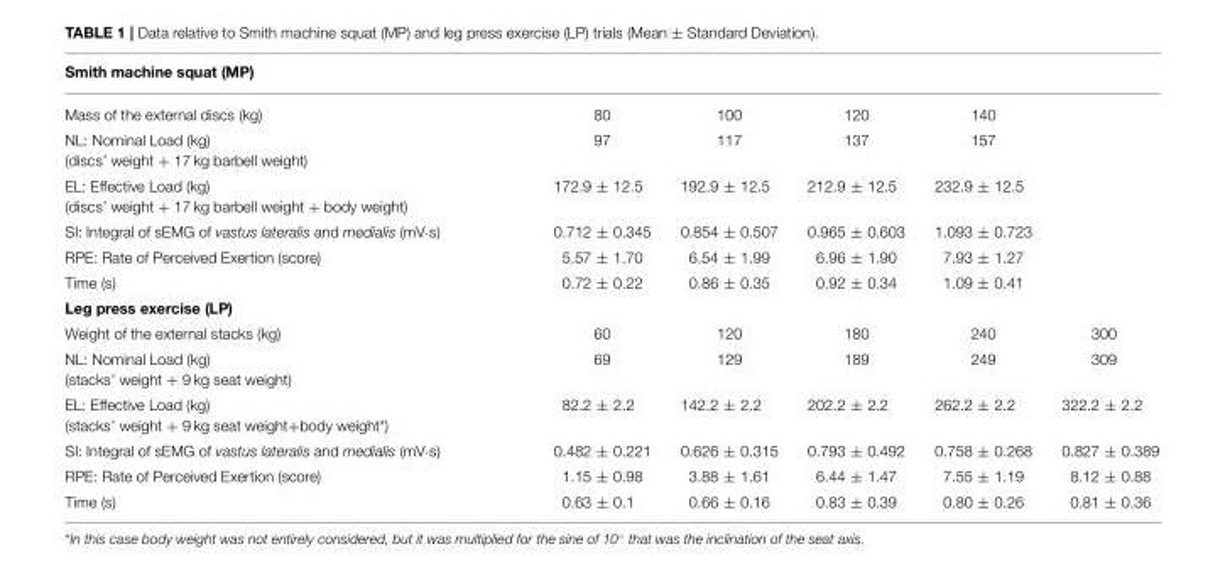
<table><thead><tr><td colspan="6">Smith machine squat (MP)</td></tr><tr><td>Mass of the external discs (kg)</td><td>80</td><td>100</td><td>120</td><td>140</td><td></td></tr></thead><tbody><tr><td>NL: Nominal Load (kg) (discs’ weight + 17 kg barbell weight)</td><td>97</td><td>117</td><td>137</td><td>157</td><td></td></tr><tr><td>EL: Effective Load (kg) (discs’ weight + 17 kg barbell weight + body weight)</td><td>172.9 ± 12.5</td><td>192.9 ± 12.5</td><td>212.9 ± 12.5</td><td>232.9 ± 12.5</td><td></td></tr><tr><td>SI: Integral of sEMG of vastus lateralis and medialis (mV·s)</td><td>0.712 ± 0.345</td><td>0.854 ± 0.507</td><td>0.965 ± 0.603</td><td>1.093 ± 0.723</td><td></td></tr><tr><td>RPE: Rate of Perceived Exertion (score)</td><td>5.57 ± 1.70</td><td>6.54 ± 1.99</td><td>6.96 ± 1.90</td><td>7.93 ± 1.27</td><td></td></tr><tr><td>Time (s)</td><td>0.72 ± 0.22</td><td>0.86 ± 0.35</td><td>0.92 ± 0.34</td><td>1.09 ± 0.41</td><td></td></tr><tr><td colspan="6">Leg press exercise (LP)</td></tr><tr><td>Weight of the external stacks (kg)</td><td>60</td><td>120</td><td>180</td><td>240</td><td>300</td></tr><tr><td>NL: Nominal Load (kg) (stacks’ weight + 9 kg seat weight)</td><td>69</td><td>129</td><td>189</td><td>249</td><td>309</td></tr><tr><td>EL: Effective Load (kg) (stacks’ weight + 9 kg seat weight+body weight*)</td><td>82.2 ± 2.2</td><td>142.2 ± 2.2</td><td>202.2 ± 2.2</td><td>262.2 ± 2.2</td><td>322.2 ± 2.2</td></tr><tr><td>SI: Integral of sEMG of vastus lateralis and medialis (mV·s)</td><td>0.482 ± 0.221</td><td>0.626 ± 0.315</td><td>0.793 ± 0.492</td><td>0.758 ± 0.268</td><td>0.827 ± 0.389</td></tr><tr><td>RPE: Rate of Perceived Exertion (score)</td><td>1.15 ± 0.98</td><td>3.88 ± 1.61</td><td>6.44 ± 1.47</td><td>7.55 ± 1.19</td><td>8.12 ± 0.88</td></tr><tr><td>Time (s)</td><td>0.63 ± 0.1</td><td>0.66 ± 0.16</td><td>0.83 ± 0.39</td><td>0.80 ± 0.26</td><td>0.81 ± 0.36</td></tr></tbody></table>